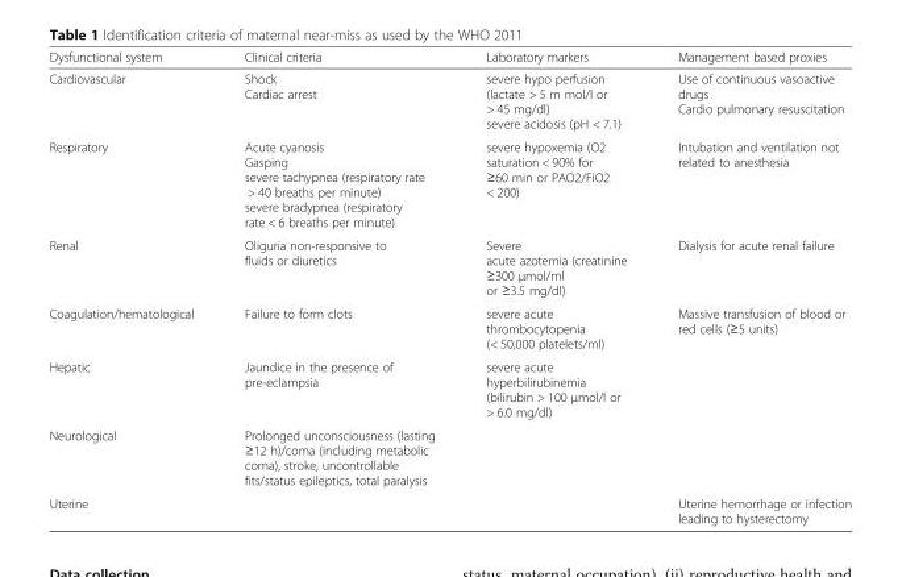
<table><thead><tr><td>Dysfunctional system</td><td>Clinical criteria</td><td>Laboratory markers</td><td>Management based proxies</td></tr></thead><tbody><tr><td>Cardiovascular</td><td>Shock Cardiac arrest</td><td>severe hypo perfusion (lactate &gt; 5 m mol/l or &gt; 45 mg/dl) severe acidosis (pH &lt; 7.1)</td><td>Use of continuous vasoactive drugs Cardio pulmonary resuscitation</td></tr><tr><td>Respiratory</td><td>Acute cyanosis Gasping severe tachypnea (respiratory rate &gt; 40 breaths per minute) severe bradypnea (respiratory rate &lt; 6 breaths per minute)</td><td>severe hypoxemia (O2 saturation &lt; 90% for ≥60 min or PAO2/FiO2 &lt; 200)</td><td>Intubation and ventilation not related to anesthesia</td></tr><tr><td>Renal</td><td>Oliguria non-responsive to fluids or diuretics</td><td>Severe acute azotemia (creatinine ≥300 μmol/ml or ≥3.5 mg/dl)</td><td>Dialysis for acute renal failure</td></tr><tr><td>Coagulation/hematological</td><td>Failure to form clots</td><td>severe acute thrombocytopenia (&lt; 50,000 platelets/ml)</td><td>Massive transfusion of blood or red cells (≥5 units)</td></tr><tr><td>Hepatic</td><td>Jaundice in the presence of pre-eclampsia</td><td>severe acute hyperbilirubinemia (bilirubin &gt; 100 μmol/l or &gt; 6.0 mg/dl)</td><td></td></tr><tr><td>Neurological</td><td>Prolonged unconsciousness (lasting ≥12 h)/coma (including metabolic coma), stroke, uncontrollable fits/status epileptics, total paralysis</td><td></td><td></td></tr><tr><td>Uterine</td><td></td><td></td><td>Uterine hemorrhage or infection leading to hysterectomy</td></tr></tbody></table>